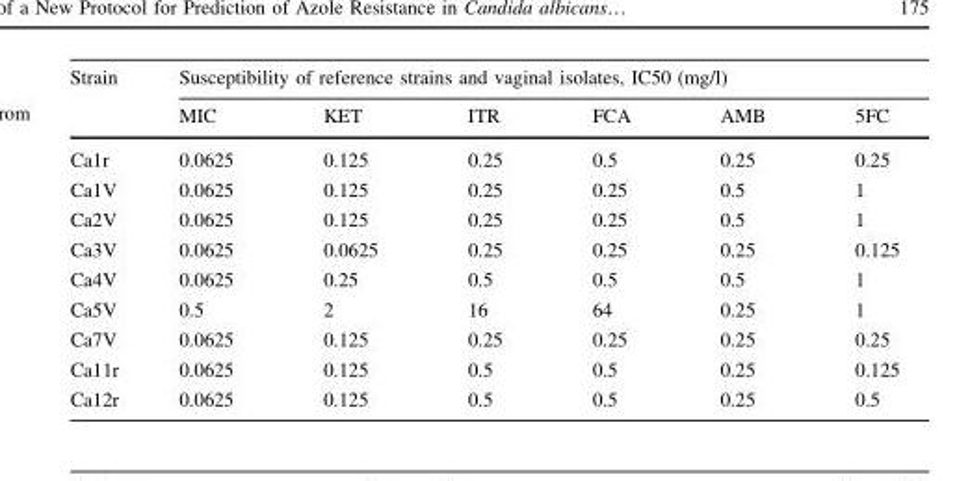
<table><thead><tr><td rowspan="2">Strain</td><td colspan="6">Susceptibility of reference strains and vaginal isolates, IC50 (mg/l)</td></tr><tr><td>MIC</td><td>KET</td><td>ITR</td><td>FCA</td><td>AMB</td><td>5FC</td></tr></thead><tbody><tr><td>Ca1r</td><td>0.0625</td><td>0.125</td><td>0.25</td><td>0.5</td><td>0.25</td><td>0.25</td></tr><tr><td>Ca1V</td><td>0.0625</td><td>0.125</td><td>0.25</td><td>0.25</td><td>0.5</td><td>1</td></tr><tr><td>Ca2V</td><td>0.0625</td><td>0.125</td><td>0.25</td><td>0.25</td><td>0.5</td><td>1</td></tr><tr><td>Ca3V</td><td>0.0625</td><td>0.0625</td><td>0.25</td><td>0.25</td><td>0.25</td><td>0.125</td></tr><tr><td>Ca4V</td><td>0.0625</td><td>0.25</td><td>0.5</td><td>0.5</td><td>0.5</td><td>1</td></tr><tr><td>Ca5V</td><td>0.5</td><td>2</td><td>16</td><td>64</td><td>0.25</td><td>1</td></tr><tr><td>Ca7V</td><td>0.0625</td><td>0.125</td><td>0.25</td><td>0.25</td><td>0.25</td><td>0.25</td></tr><tr><td>Ca11r</td><td>0.0625</td><td>0.125</td><td>0.5</td><td>0.5</td><td>0.25</td><td>0.125</td></tr><tr><td>Ca12r</td><td>0.0625</td><td>0.125</td><td>0.5</td><td>0.5</td><td>0.25</td><td>0.5</td></tr></tbody></table>